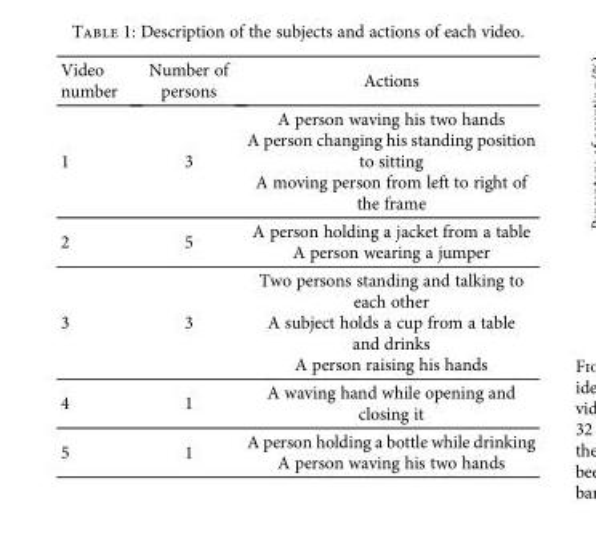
<table><thead><tr><td>Video number</td><td>Number of persons</td><td>Actions</td></tr></thead><tbody><tr><td>1</td><td>3</td><td>A person waving his two hands A person changing his standing position to sitting A moving person from left to right of the frame</td></tr><tr><td>2</td><td>5</td><td>A person holding a jacket from a table A person wearing a jumper</td></tr><tr><td>3</td><td>3</td><td>Two persons standing and talking to each other A subject holds a cup from a table and drinks A person raising his hands</td></tr><tr><td>4</td><td>1</td><td>A waving hand while opening and closing it</td></tr><tr><td>5</td><td>1</td><td>A person holding a bottle while drinking A person waving his two hands</td></tr></tbody></table>